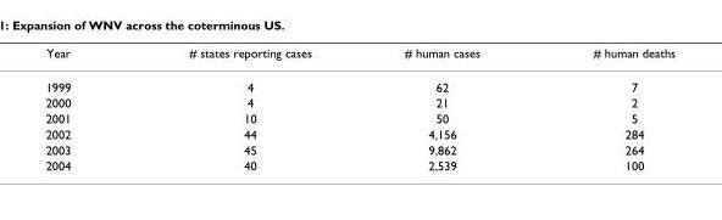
<table><thead><tr><td>Year</td><td># states reporting cases</td><td># human cases</td><td># human deaths</td></tr></thead><tbody><tr><td>1999</td><td>4</td><td>62</td><td>7</td></tr><tr><td>2000</td><td>4</td><td>21</td><td>2</td></tr><tr><td>2001</td><td>10</td><td>50</td><td>5</td></tr><tr><td>2002</td><td>44</td><td>4,156</td><td>284</td></tr><tr><td>2003</td><td>45</td><td>9,862</td><td>264</td></tr><tr><td>2004</td><td>40</td><td>2,539</td><td>100</td></tr></tbody></table>